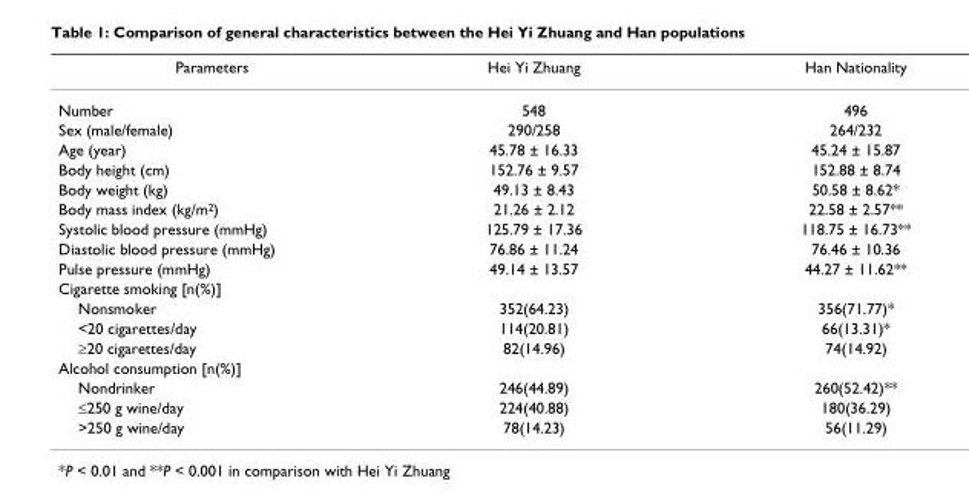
<table><thead><tr><td>Parameters</td><td>Hei Yi Zhuang</td><td>Han Nationality</td></tr></thead><tbody><tr><td>Number</td><td>548</td><td>496</td></tr><tr><td>Sex (male/female)</td><td>290/258</td><td>264/232</td></tr><tr><td>Age (year)</td><td>45.78 ± 16.33</td><td>45.24 ± 15.87</td></tr><tr><td>Body height (cm)</td><td>152.76 ± 9.57</td><td>152.88 ± 8.74</td></tr><tr><td>Body weight (kg)</td><td>49.13 ± 8.43</td><td>50.58 ± 8.62*</td></tr><tr><td>Body mass index (kg/m<sup>2</sup>)</td><td>21.26 ± 2.12</td><td>22.58 ± 2.57**</td></tr><tr><td>Systolic blood pressure (mmHg)</td><td>125.79 ± 17.36</td><td>118.75 ± 16.73**</td></tr><tr><td>Diastolic blood pressure (mmHg)</td><td>76.86 ± 11.24</td><td>76.46 ± 10.36</td></tr><tr><td>Pulse pressure (mmHg)</td><td>49.14 ± 13.57</td><td>44.27 ± 11.62**</td></tr><tr><td colspan="3">Cigarette smoking [n(%)]</td></tr><tr><td>Nonsmoker</td><td>352(64.23)</td><td>356(71.77)*</td></tr><tr><td>&lt;20 cigarettes/day</td><td>114(20.81)</td><td>66(13.31)*</td></tr><tr><td>≥20 cigarettes/day</td><td>82(14.96)</td><td>74(14.92)</td></tr><tr><td colspan="3">Alcohol consumption [n(%)]</td></tr><tr><td>Nondrinker</td><td>246(44.89)</td><td>260(52.42)**</td></tr><tr><td>≤250 g wine/day</td><td>224(40.88)</td><td>180(36.29)</td></tr><tr><td>&gt;250 g wine/day</td><td>78(14.23)</td><td>56(11.29)</td></tr></tbody></table>